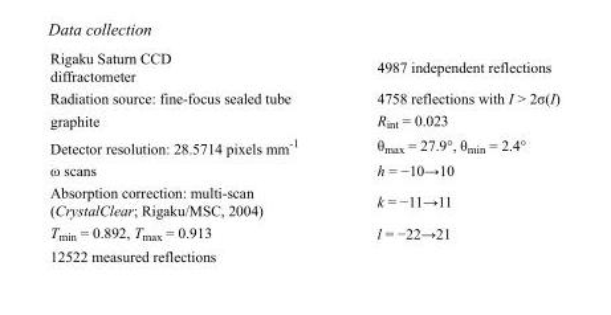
<table><tbody><tr><td>Rigaku Saturn CCD diffractometer</td><td>4987 independent reflections</td></tr><tr><td>Radiation source: fine-focus sealed tube</td><td>4758 reflections with I &gt; 2σ(I)</td></tr><tr><td>graphite</td><td>R<sub>int</sub> = 0.023</td></tr><tr><td>Detector resolution: 28.5714 pixels mm<sup>-1</sup></td><td>θ<sub>max</sub> = 27.9°, θ<sub>min</sub> = 2.4°</td></tr><tr><td>ω scans</td><td>h = −10→10</td></tr><tr><td>Absorption correction: multi-scan (CrystalClear; Rigaku/MSC, 2004)</td><td>k = −11→11</td></tr><tr><td>T<sub>min</sub> = 0.892, T<sub>max</sub> = 0.913</td><td>l = −22→21</td></tr><tr><td>12522 measured reflections</td><td></td></tr></tbody></table>